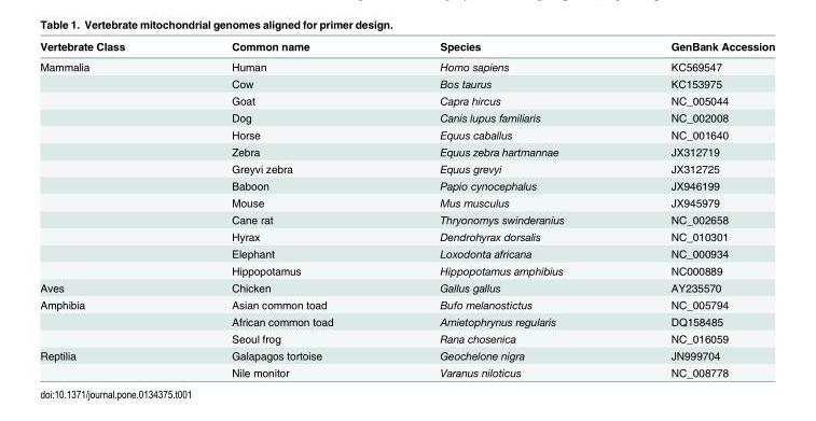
<table><thead><tr><td>Vertebrate Class</td><td>Common name</td><td>Species</td><td>GenBank Accession</td></tr></thead><tbody><tr><td rowspan="13">Mammalia</td><td>Human</td><td>Homo sapiens</td><td>KC569547</td></tr><tr><td>Cow</td><td>Bos taurus</td><td>KC153975</td></tr><tr><td>Goat</td><td>Capra hircus</td><td>NC_005044</td></tr><tr><td>Dog</td><td>Canis lupus familiaris</td><td>NC_002008</td></tr><tr><td>Horse</td><td>Equus caballus</td><td>NC_001640</td></tr><tr><td>Zebra</td><td>Equus zebra hartmannae</td><td>JX312719</td></tr><tr><td>Greyvi zebra</td><td>Equus grevyi</td><td>JX312725</td></tr><tr><td>Baboon</td><td>Papio cynocephalus</td><td>JX946199</td></tr><tr><td>Mouse</td><td>Mus musculus</td><td>JX945979</td></tr><tr><td>Cane rat</td><td>Thryonomys swinderanius</td><td>NC_002658</td></tr><tr><td>Hyrax</td><td>Dendrohyrax dorsalis</td><td>NC_010301</td></tr><tr><td>Elephant</td><td>Loxodonta africana</td><td>NC_000934</td></tr><tr><td>Hippopotamus</td><td>Hippopotamus amphibius</td><td>NC000889</td></tr><tr><td>Aves</td><td>Chicken</td><td>Gallus gallus</td><td>AY235570</td></tr><tr><td rowspan="3">Amphibia</td><td>Asian common toad</td><td>Bufo melanostictus</td><td>NC_005794</td></tr><tr><td>African common toad</td><td>Amietophrynus regularis</td><td>DQ158485</td></tr><tr><td>Seoul frog</td><td>Rana chosenica</td><td>NC_016059</td></tr><tr><td rowspan="2">Reptilia</td><td>Galapagos tortoise</td><td>Geochelone nigra</td><td>JN999704</td></tr><tr><td>Nile monitor</td><td>Varanus niloticus</td><td>NC_008778</td></tr></tbody></table>